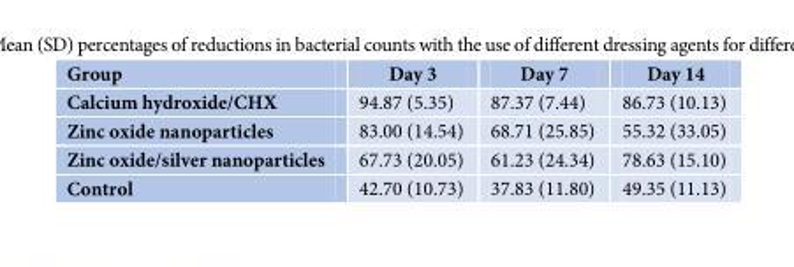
<table><thead><tr><td>Group</td><td>Day 3</td><td>Day 7</td><td>Day 14</td></tr></thead><tbody><tr><td>Calcium hydroxide/CHX</td><td>94.87 (5.35)</td><td>87.37 (7.44)</td><td>86.73 (10.13)</td></tr><tr><td>Zinc oxide nanoparticles</td><td>83.00 (14.54)</td><td>68.71 (25.85)</td><td>55.32 (33.05)</td></tr><tr><td>Zinc oxide/silver nanoparticles</td><td>67.73 (20.05)</td><td>61.23 (24.34)</td><td>78.63 (15.10)</td></tr><tr><td>Control</td><td>42.70 (10.73)</td><td>37.83 (11.80)</td><td>49.35 (11.13)</td></tr></tbody></table>